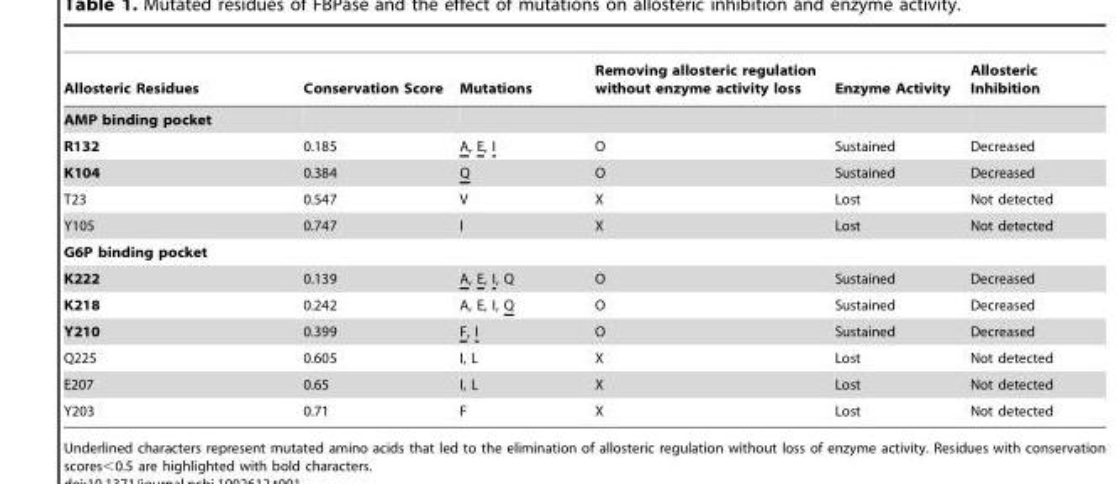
<table><thead><tr><td>Allosteric Residues</td><td>Conservation Score</td><td>Mutations</td><td>Removing allosteric regulation without enzyme activity loss</td><td>Enzyme Activity</td><td>Allosteric Inhibition</td></tr></thead><tbody><tr><td colspan="6">AMP binding pocket</td></tr><tr><td>R132</td><td>0.185</td><td>A, E, I</td><td>O</td><td>Sustained</td><td>Decreased</td></tr><tr><td>K104</td><td>0.384</td><td>Q</td><td>O</td><td>Sustained</td><td>Decreased</td></tr><tr><td>T23</td><td>0.547</td><td>V</td><td>X</td><td>Lost</td><td>Not detected</td></tr><tr><td>Y105</td><td>0.747</td><td>I</td><td>X</td><td>Lost</td><td>Not detected</td></tr><tr><td colspan="6">G6P binding pocket</td></tr><tr><td>K222</td><td>0.139</td><td>A, E, I, Q</td><td>O</td><td>Sustained</td><td>Decreased</td></tr><tr><td>K218</td><td>0.242</td><td>A, E, I, Q</td><td>O</td><td>Sustained</td><td>Decreased</td></tr><tr><td>Y210</td><td>0.399</td><td>F, I</td><td>O</td><td>Sustained</td><td>Decreased</td></tr><tr><td>Q225</td><td>0.605</td><td>I, L</td><td>X</td><td>Lost</td><td>Not detected</td></tr><tr><td>E207</td><td>0.65</td><td>I, L</td><td>X</td><td>Lost</td><td>Not detected</td></tr><tr><td>Y203</td><td>0.71</td><td>F</td><td>X</td><td>Lost</td><td>Not detected</td></tr></tbody></table>